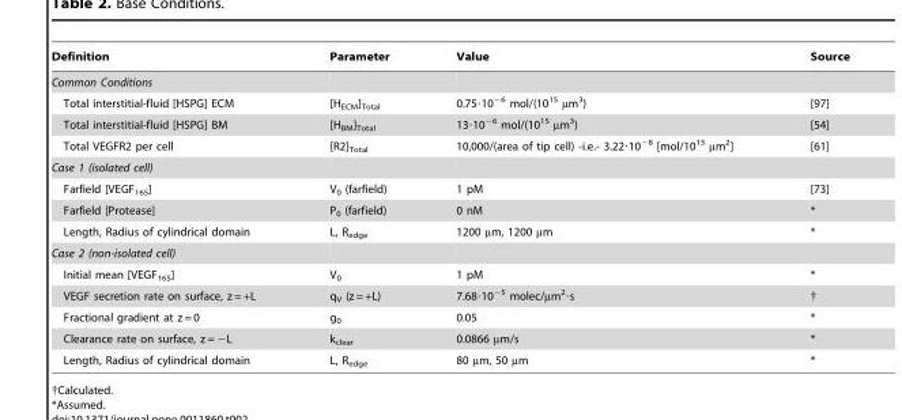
<table><thead><tr><td>Definition</td><td>Parameter</td><td>Value</td><td>Source</td></tr></thead><tbody><tr><td colspan="4">Common Conditions</td></tr><tr><td>Total interstitial-fluid [HSPG] ECM</td><td>[H<sub>ECM</sub>]<sub>Total</sub></td><td>0.75·10<sup>−6</sup> mol/(10<sup>15</sup> µm<sup>3</sup>)</td><td>[97]</td></tr><tr><td>Total interstitial-fluid [HSPG] BM</td><td>[H<sub>BM</sub>]<sub>Total</sub></td><td>13·10<sup>−6</sup> mol/(10<sup>15</sup> µm<sup>3</sup>)</td><td>[54]</td></tr><tr><td>Total VEGFR2 per cell</td><td>[R2]<sub>Total</sub></td><td>10,000/(area of tip cell) -i.e.- 3.22·10<sup>−8</sup> [mol/10<sup>15</sup> µm<sup>2</sup>]</td><td>[61]</td></tr><tr><td colspan="4">Case 1 (isolated cell)</td></tr><tr><td>Farfield [VEGF<sub>165</sub>]</td><td>V<sub>0</sub> (farfield)</td><td>1 pM</td><td>[73]</td></tr><tr><td>Farfield [Protease]</td><td>P<sub>0</sub> (farfield)</td><td>0 nM</td><td>*</td></tr><tr><td>Length, Radius of cylindrical domain</td><td>L, R<sub>edge</sub></td><td>1200 µm, 1200 µm</td><td>*</td></tr><tr><td colspan="4">Case 2 (non-isolated cell)</td></tr><tr><td>Initial mean [VEGF<sub>165</sub>]</td><td>V<sub>0</sub></td><td>1 pM</td><td>*</td></tr><tr><td>VEGF secretion rate on surface, z = +L</td><td>q<sub>V</sub> (z = +L)</td><td>7.68·10<sup>−5</sup> molec/µm<sup>2</sup>·s</td><td>†</td></tr><tr><td>Fractional gradient at z = 0</td><td>g<sub>0</sub></td><td>0.05</td><td>*</td></tr><tr><td>Clearance rate on surface, z = −L</td><td>k<sub>clear</sub></td><td>0.0866 µm/s</td><td>*</td></tr><tr><td>Length, Radius of cylindrical domain</td><td>L, R<sub>edge</sub></td><td>80 µm, 50 µm</td><td>*</td></tr></tbody></table>